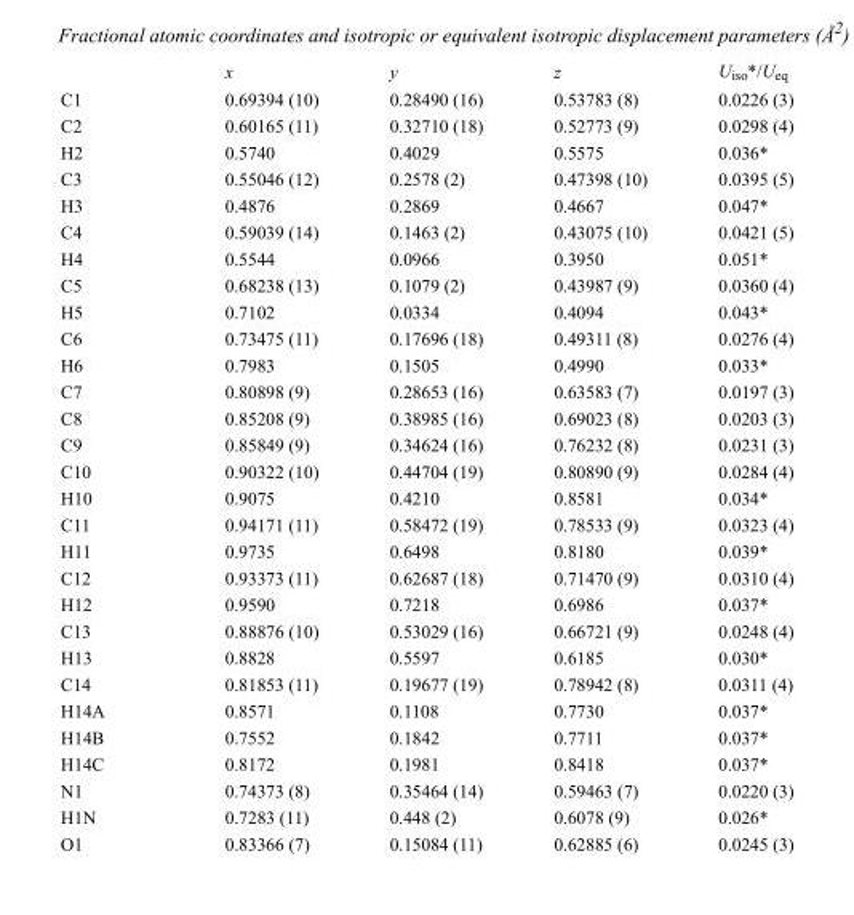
<table><thead><tr><td></td><td>x</td><td>y</td><td>z</td><td>U<sub>iso</sub>*/U<sub>eq</sub></td></tr></thead><tbody><tr><td>C1</td><td>0.69394 (10)</td><td>0.28490 (16)</td><td>0.53783 (8)</td><td>0.0226 (3)</td></tr><tr><td>C2</td><td>0.60165 (11)</td><td>0.32710 (18)</td><td>0.52773 (9)</td><td>0.0298 (4)</td></tr><tr><td>H2</td><td>0.5740</td><td>0.4029</td><td>0.5575</td><td>0.036*</td></tr><tr><td>C3</td><td>0.55046 (12)</td><td>0.2578 (2)</td><td>0.47398 (10)</td><td>0.0395 (5)</td></tr><tr><td>H3</td><td>0.4876</td><td>0.2869</td><td>0.4667</td><td>0.047*</td></tr><tr><td>C4</td><td>0.59039 (14)</td><td>0.1463 (2)</td><td>0.43075 (10)</td><td>0.0421 (5)</td></tr><tr><td>H4</td><td>0.5544</td><td>0.0966</td><td>0.3950</td><td>0.051*</td></tr><tr><td>C5</td><td>0.68238 (13)</td><td>0.1079 (2)</td><td>0.43987 (9)</td><td>0.0360 (4)</td></tr><tr><td>H5</td><td>0.7102</td><td>0.0334</td><td>0.4094</td><td>0.043*</td></tr><tr><td>C6</td><td>0.73475 (11)</td><td>0.17696 (18)</td><td>0.49311 (8)</td><td>0.0276 (4)</td></tr><tr><td>H6</td><td>0.7983</td><td>0.1505</td><td>0.4990</td><td>0.033*</td></tr><tr><td>C7</td><td>0.80898 (9)</td><td>0.28653 (16)</td><td>0.63583 (7)</td><td>0.0197 (3)</td></tr><tr><td>C8</td><td>0.85208 (9)</td><td>0.38985 (16)</td><td>0.69023 (8)</td><td>0.0203 (3)</td></tr><tr><td>C9</td><td>0.85849 (9)</td><td>0.34624 (16)</td><td>0.76232 (8)</td><td>0.0231 (3)</td></tr><tr><td>C10</td><td>0.90322 (10)</td><td>0.44704 (19)</td><td>0.80890 (9)</td><td>0.0284 (4)</td></tr><tr><td>H10</td><td>0.9075</td><td>0.4210</td><td>0.8581</td><td>0.034*</td></tr><tr><td>C11</td><td>0.94171 (11)</td><td>0.58472 (19)</td><td>0.78533 (9)</td><td>0.0323 (4)</td></tr><tr><td>H11</td><td>0.9735</td><td>0.6498</td><td>0.8180</td><td>0.039*</td></tr><tr><td>C12</td><td>0.93373 (11)</td><td>0.62687 (18)</td><td>0.71470 (9)</td><td>0.0310 (4)</td></tr><tr><td>H12</td><td>0.9590</td><td>0.7218</td><td>0.6986</td><td>0.037*</td></tr><tr><td>C13</td><td>0.88876 (10)</td><td>0.53029 (16)</td><td>0.66721 (9)</td><td>0.0248 (4)</td></tr><tr><td>H13</td><td>0.8828</td><td>0.5597</td><td>0.6185</td><td>0.030*</td></tr><tr><td>C14</td><td>0.81853 (11)</td><td>0.19677 (19)</td><td>0.78942 (8)</td><td>0.0311 (4)</td></tr><tr><td>H14A</td><td>0.8571</td><td>0.1108</td><td>0.7730</td><td>0.037*</td></tr><tr><td>H14B</td><td>0.7552</td><td>0.1842</td><td>0.7711</td><td>0.037*</td></tr><tr><td>H14C</td><td>0.8172</td><td>0.1981</td><td>0.8418</td><td>0.037*</td></tr><tr><td>N1</td><td>0.74373 (8)</td><td>0.35464 (14)</td><td>0.59463 (7)</td><td>0.0220 (3)</td></tr><tr><td>H1N</td><td>0.7283 (11)</td><td>0.448 (2)</td><td>0.6078 (9)</td><td>0.026*</td></tr><tr><td>O1</td><td>0.83366 (7)</td><td>0.15084 (11)</td><td>0.62885 (6)</td><td>0.0245 (3)</td></tr></tbody></table>